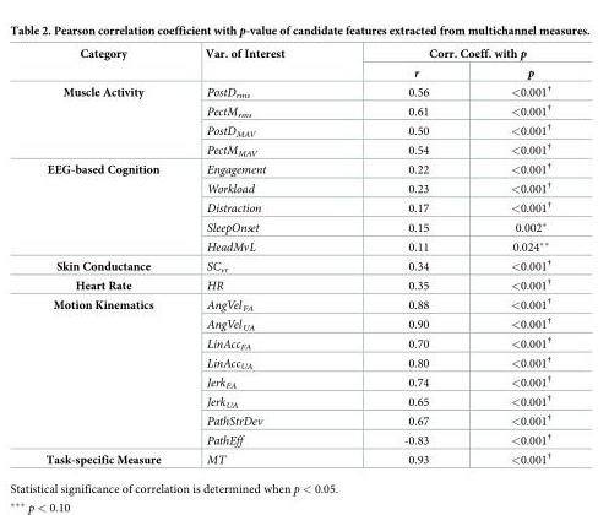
<table><thead><tr><td rowspan="2">Category</td><td rowspan="2">Var. of Interest</td><td colspan="2">Corr. Coeff. with p</td></tr><tr><td>r</td><td>p</td></tr></thead><tbody><tr><td rowspan="4">Muscle Activity</td><td>PostD<sub>rms</sub></td><td>0.56</td><td>&lt;0.001<sup>†</sup></td></tr><tr><td>PectM<sub>rms</sub></td><td>0.61</td><td>&lt;0.001<sup>†</sup></td></tr><tr><td>PostD<sub>MAV</sub></td><td>0.50</td><td>&lt;0.001<sup>†</sup></td></tr><tr><td>PectM<sub>MAV</sub></td><td>0.54</td><td>&lt;0.001<sup>†</sup></td></tr><tr><td rowspan="5">EEG-based Cognition</td><td>Engagement</td><td>0.22</td><td>&lt;0.001<sup>†</sup></td></tr><tr><td>Workload</td><td>0.23</td><td>&lt;0.001<sup>†</sup></td></tr><tr><td>Distraction</td><td>0.17</td><td>&lt;0.001<sup>†</sup></td></tr><tr><td>SleepOnset</td><td>0.15</td><td>0.002*</td></tr><tr><td>HeadMvL</td><td>0.11</td><td>0.024**</td></tr><tr><td>Skin Conductance</td><td>SC<sub>vr</sub></td><td>0.34</td><td>&lt;0.001<sup>†</sup></td></tr><tr><td>Heart Rate</td><td>HR</td><td>0.35</td><td>&lt;0.001<sup>†</sup></td></tr><tr><td rowspan="8">Motion Kinematics</td><td>AngVel <sub>FA</sub></td><td>0.88</td><td>&lt;0.001<sup>†</sup></td></tr><tr><td>AngVel <sub>UA</sub></td><td>0.90</td><td>&lt;0.001<sup>†</sup></td></tr><tr><td>LinAcc<sub>FA</sub></td><td>0.70</td><td>&lt;0.001<sup>†</sup></td></tr><tr><td>LinAcc<sub>UA</sub></td><td>0.80</td><td>&lt;0.001<sup>†</sup></td></tr><tr><td>Jerk<sub>FA</sub></td><td>0.74</td><td>&lt;0.001<sup>†</sup></td></tr><tr><td>Jerk<sub>UA</sub></td><td>0.65</td><td>&lt;0.001<sup>†</sup></td></tr><tr><td>PathStrDev</td><td>0.67</td><td>&lt;0.001<sup>†</sup></td></tr><tr><td>PathEff</td><td>-0.83</td><td>&lt;0.001<sup>†</sup></td></tr><tr><td>Task-specific Measure</td><td>MT</td><td>0.93</td><td>&lt;0.001<sup>†</sup></td></tr></tbody></table>